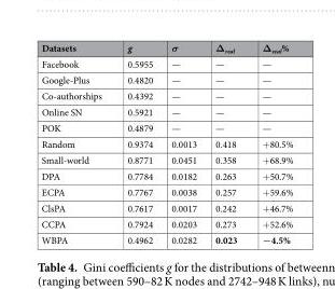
<table><thead><tr><td>Datasets</td><td>g</td><td>σ</td><td>Δ<sub>real</sub></td><td>Δ<sub>real</sub>%</td></tr></thead><tbody><tr><td>Facebook</td><td>0.5955</td><td>—</td><td>—</td><td>—</td></tr><tr><td>Google-Plus</td><td>0.4820</td><td>—</td><td>—</td><td>—</td></tr><tr><td>Co-authorships</td><td>0.4392</td><td>—</td><td>—</td><td>—</td></tr><tr><td>Online SN</td><td>0.5921</td><td>—</td><td>—</td><td>—</td></tr><tr><td>POK</td><td>0.4879</td><td>—</td><td>—</td><td>—</td></tr><tr><td>Random</td><td>0.9374</td><td>0.0013</td><td>0.418</td><td>+80.5%</td></tr><tr><td>Small-world</td><td>0.8771</td><td>0.0451</td><td>0.358</td><td>+68.9%</td></tr><tr><td>DPA</td><td>0.7784</td><td>0.0182</td><td>0.263</td><td>+50.7%</td></tr><tr><td>ECPA</td><td>0.7767</td><td>0.0038</td><td>0.257</td><td>+59.6%</td></tr><tr><td>ClsPA</td><td>0.7617</td><td>0.0017</td><td>0.242</td><td>+46.7%</td></tr><tr><td>CCPA</td><td>0.7924</td><td>0.0203</td><td>0.273</td><td>+52.6%</td></tr><tr><td>WBPA</td><td>0.4962</td><td>0.0282</td><td>0.023</td><td>−4.5%</td></tr></tbody></table>